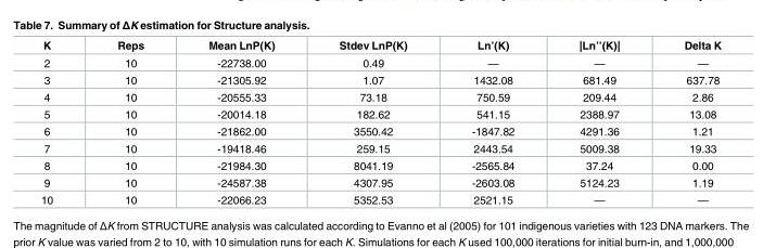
<table><thead><tr><td>K</td><td>Reps</td><td>Mean LnP(K)</td><td>Stdev LnP(K)</td><td>Ln’(K)</td><td>|Ln’’(K)|</td><td>Delta K</td></tr></thead><tbody><tr><td>2</td><td>10</td><td>-22738.00</td><td>0.49</td><td>—</td><td>—</td><td>—</td></tr><tr><td>3</td><td>10</td><td>-21305.92</td><td>1.07</td><td>1432.08</td><td>681.49</td><td>637.78</td></tr><tr><td>4</td><td>10</td><td>-20555.33</td><td>73.18</td><td>750.59</td><td>209.44</td><td>2.86</td></tr><tr><td>5</td><td>10</td><td>-20014.18</td><td>182.62</td><td>541.15</td><td>2388.97</td><td>13.08</td></tr><tr><td>6</td><td>10</td><td>-21862.00</td><td>3550.42</td><td>-1847.82</td><td>4291.36</td><td>1.21</td></tr><tr><td>7</td><td>10</td><td>-19418.46</td><td>259.15</td><td>2443.54</td><td>5009.38</td><td>19.33</td></tr><tr><td>8</td><td>10</td><td>-21984.30</td><td>8041.19</td><td>-2565.84</td><td>37.24</td><td>0.00</td></tr><tr><td>9</td><td>10</td><td>-24587.38</td><td>4307.95</td><td>-2603.08</td><td>5124.23</td><td>1.19</td></tr><tr><td>10</td><td>10</td><td>-22066.23</td><td>5352.53</td><td>2521.15</td><td>—</td><td>—</td></tr></tbody></table>